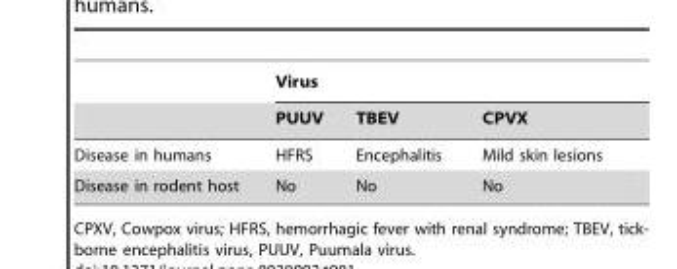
<table><thead><tr><td rowspan="2"></td><td colspan="3">Virus</td></tr><tr><td>PUUV</td><td>TBEV</td><td>CPVX</td></tr></thead><tbody><tr><td>Disease in humans</td><td>HFRS</td><td>Encephalitis</td><td>Mild skin lesions</td></tr><tr><td>Disease in rodent host</td><td>No</td><td>No</td><td>No</td></tr></tbody></table>